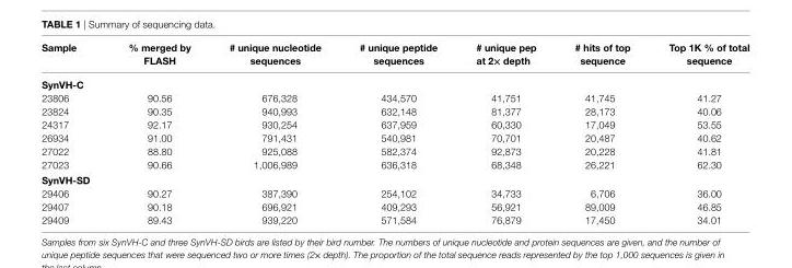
<table><thead><tr><td>sample</td><td>% merged by Flash</td><td># unique nucleotide sequences</td><td># unique peptide sequences</td><td># unique pep at 2× depth</td><td># hits of top sequence</td><td>Top 1K % of total sequence</td></tr></thead><tbody><tr><td colspan="7">synVh-c</td></tr><tr><td>23806</td><td>90.56</td><td>676,328</td><td>434,570</td><td>41,751</td><td>41,745</td><td>41.27</td></tr><tr><td>23824</td><td>90.35</td><td>940,993</td><td>632,148</td><td>81,377</td><td>28,173</td><td>40.06</td></tr><tr><td>24317</td><td>92.17</td><td>930,254</td><td>637,959</td><td>60,330</td><td>17,049</td><td>53.55</td></tr><tr><td>26934</td><td>91.00</td><td>791,431</td><td>540,981</td><td>70,701</td><td>20,487</td><td>40.62</td></tr><tr><td>27022</td><td>88.80</td><td>925,088</td><td>582,374</td><td>92,873</td><td>20,228</td><td>41.81</td></tr><tr><td>27023</td><td>90.66</td><td>1,006,989</td><td>636,318</td><td>68,348</td><td>26,221</td><td>62.30</td></tr><tr><td colspan="7">synVh-sD</td></tr><tr><td>29406</td><td>90.27</td><td>387,390</td><td>254,102</td><td>34,733</td><td>6,706</td><td>36.00</td></tr><tr><td>29407</td><td>90.18</td><td>696,921</td><td>409,293</td><td>56,921</td><td>89,009</td><td>46.85</td></tr><tr><td>29409</td><td>89.43</td><td>939,220</td><td>571,584</td><td>76,879</td><td>17,450</td><td>34.01</td></tr></tbody></table>